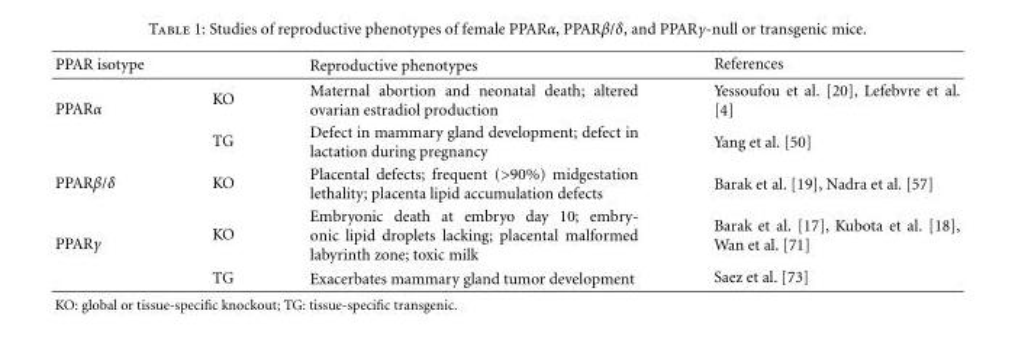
<table><thead><tr><td>PPAR isotype</td><td></td><td>Reproductive phenotypes</td><td>References</td></tr></thead><tbody><tr><td rowspan="2">PPARα</td><td>KO</td><td>Maternal abortion and neonatal death; altered ovarian estradiol production</td><td>Yessoufou et al. [20], Lefebvre et al. [4]</td></tr><tr><td>TG</td><td>Defect in mammary gland development; defect in lactation during pregnancy</td><td>Yang et al. [50]</td></tr><tr><td>PPARβ/δ</td><td>KO</td><td>Placental defects; frequent (&gt;90%) midgestation lethality; placenta lipid accumulation defects</td><td>Barak et al. [19], Nadra et al. [57]</td></tr><tr><td rowspan="2">PPARγ</td><td>KO</td><td>Embryonic death at embryo day 10; embry- onic lipid droplets lacking; placental malformed labyrinth zone; toxic milk</td><td>Barak et al. [17], Kubota et al. [18], Wan et al. [71]</td></tr><tr><td>TG</td><td>Exacerbates mammary gland tumor development</td><td>Saez et al. [73]</td></tr></tbody></table>